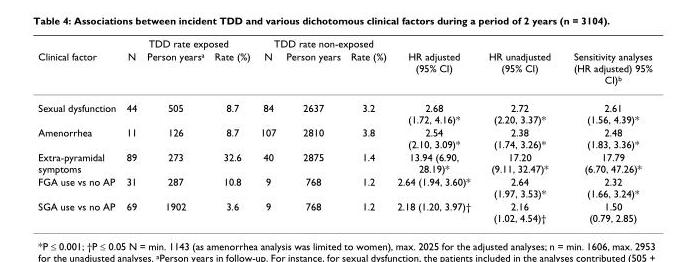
<table><thead><tr><td rowspan="2">Clinical factor</td><td colspan="3">TDD rate exposed</td><td colspan="3">TDD rate non-exposed</td><td rowspan="2">HR adjusted (95% CI)</td><td rowspan="2">HR unadjusted (95% CI)</td><td rowspan="2">Sensitivity analyses (HR adjusted) 95% CI)<sup>b</sup></td></tr><tr><td>N</td><td>Person years<sup>a</sup></td><td>Rate (%)</td><td>N</td><td>Person years</td><td>Rate (%)</td></tr></thead><tbody><tr><td>Sexual dysfunction</td><td>44</td><td>505</td><td>8.7</td><td>84</td><td>2637</td><td>3.2</td><td>2.68 (1.72, 4.16)*</td><td>2.72 (2.20, 3.37)*</td><td>2.61 (1.56, 4.39)*</td></tr><tr><td>Amenorrhea</td><td>11</td><td>126</td><td>8.7</td><td>107</td><td>2810</td><td>3.8</td><td>2.54 (2.10, 3.09)*</td><td>2.38 (1.74, 3.26)*</td><td>2.48 (1.83, 3.36)*</td></tr><tr><td>Extra-pyramidal symptoms</td><td>89</td><td>273</td><td>32.6</td><td>40</td><td>2875</td><td>1.4</td><td>13.94 (6.90, 28.19)*</td><td>17.20 (9.11, 32.47)*</td><td>17.79 (6.70, 47.26)*</td></tr><tr><td>FGA use vs no AP</td><td>31</td><td>287</td><td>10.8</td><td>9</td><td>768</td><td>1.2</td><td>2.64 (1.94, 3.60)*</td><td>2.64 (1.97, 3.53)*</td><td>2.32 (1.66, 3.24)*</td></tr><tr><td>SGA use vs no AP</td><td>69</td><td>1902</td><td>3.6</td><td>9</td><td>768</td><td>1.2</td><td>2.18 (1.20, 3.97)†</td><td>2.16 (1.02, 4.54)†</td><td>1.50 (0.79, 2.85)</td></tr></tbody></table>